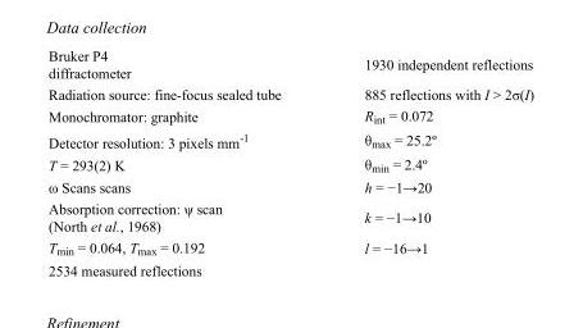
<table><tbody><tr><td>Bruker P4 diffractometer</td><td>1930 independent reflections</td></tr><tr><td>Radiation source: fine-focus sealed tube</td><td>885 reflections with I &gt; 2σ(I)</td></tr><tr><td>Monochromator: graphite</td><td>R<sub>int</sub> = 0.072</td></tr><tr><td>Detector resolution: 3 pixels mm<sup>-1</sup></td><td>θ<sub>max</sub> = 25.2º</td></tr><tr><td>T = 293(2) K</td><td>θ<sub>min</sub> = 2.4º</td></tr><tr><td>ω Scans scans</td><td>h = −1→20</td></tr><tr><td>Absorption correction: ψ scan (North et al., 1968)</td><td>k = −1→10</td></tr><tr><td>T<sub>min</sub> = 0.064, T<sub>max</sub> = 0.192</td><td>l = −16→1</td></tr><tr><td>2534 measured reflections</td><td></td></tr></tbody></table>